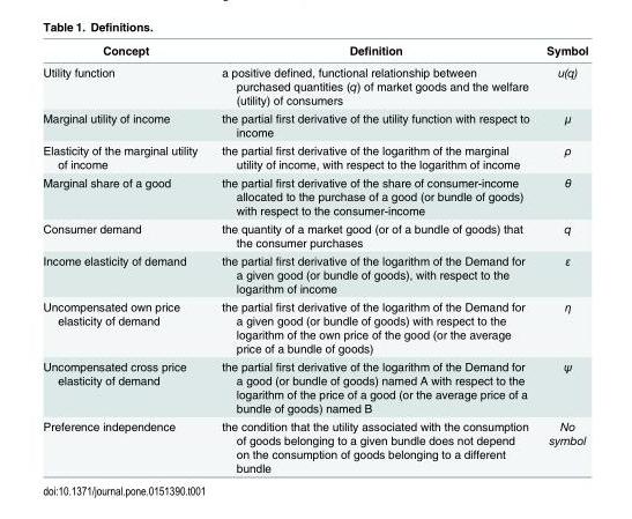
<table><thead><tr><td>Concept</td><td>Definition</td><td>Symbol</td></tr></thead><tbody><tr><td>Utility function</td><td>a positive defined, functional relationship between purchased quantities (q) of market goods and the welfare (utility) of consumers</td><td>u(q)</td></tr><tr><td>Marginal utility of income</td><td>the partial first derivative of the utility function with respect to income</td><td>μ</td></tr><tr><td>Elasticity of the marginal utility of income</td><td>the partial first derivative of the logarithm of the marginal utility of income, with respect to the logarithm of income</td><td>ρ</td></tr><tr><td>Marginal share of a good</td><td>the partial first derivative of the share of consumer-income allocated to the purchase of a good (or bundle of goods) with respect to the consumer-income</td><td>θ</td></tr><tr><td>Consumer demand</td><td>the quantity of a market good (or of a bundle of goods) that the consumer purchases</td><td>q</td></tr><tr><td>Income elasticity of demand</td><td>the partial first derivative of the logarithm of the Demand for a given good (or bundle of goods), with respect to the logarithm of income</td><td>ε</td></tr><tr><td>Uncompensated own price elasticity of demand</td><td>the partial first derivative of the logarithm of the Demand for a given good (or bundle of goods) with respect to the logarithm of the own price of the good (or the average price of a bundle of goods)</td><td>η</td></tr><tr><td>Uncompensated cross price elasticity of demand</td><td>the partial first derivative of the logarithm of the Demand for a good (or bundle of goods) named A with respect to the logarithm of the price of a good (or the average price of a bundle of goods) named B</td><td>ψ</td></tr><tr><td>Preference independence</td><td>the condition that the utility associated with the consumption of goods belonging to a given bundle does not depend on the consumption of goods belonging to a different bundle</td><td>No symbol</td></tr></tbody></table>